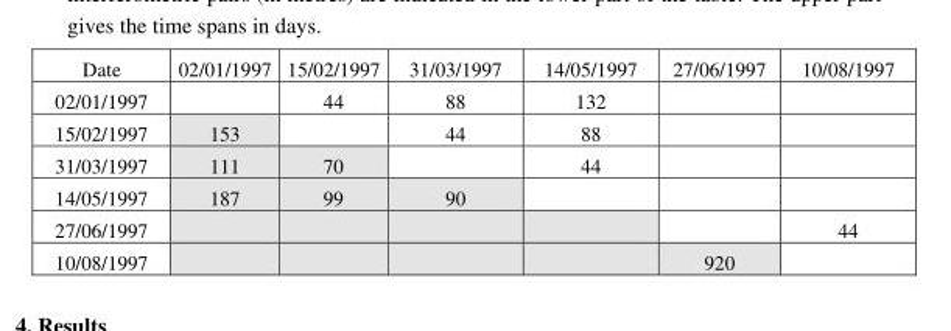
<table><thead><tr><td>Date</td><td>02/01/1997</td><td>15/02/1997</td><td>31/03/1997</td><td>14/05/1997</td><td>27/06/1997</td><td>10/08/1997</td></tr></thead><tbody><tr><td>02/01/1997</td><td></td><td>44</td><td>88</td><td>132</td><td></td><td></td></tr><tr><td>15/02/1997</td><td>153</td><td></td><td>44</td><td>88</td><td></td><td></td></tr><tr><td>31/03/1997</td><td>111</td><td>70</td><td></td><td>44</td><td></td><td></td></tr><tr><td>14/05/1997</td><td>187</td><td>99</td><td>90</td><td></td><td></td><td></td></tr><tr><td>27/06/1997</td><td></td><td></td><td></td><td></td><td></td><td>44</td></tr><tr><td>10/08/1997</td><td></td><td></td><td></td><td></td><td>920</td><td></td></tr></tbody></table>